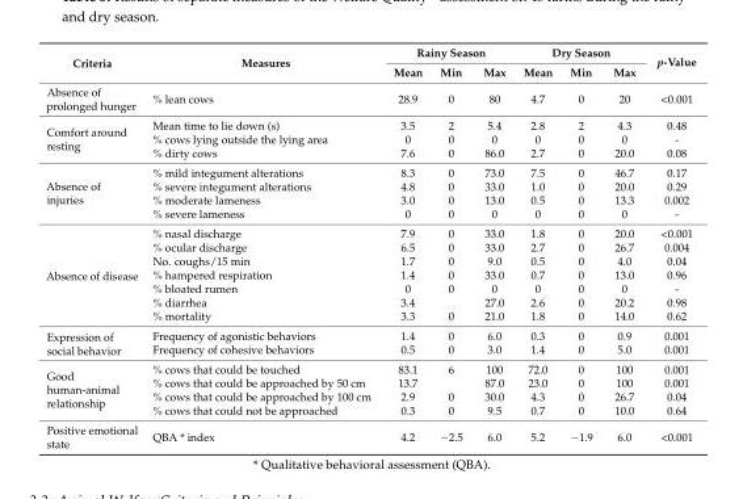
<table><thead><tr><td rowspan="2">Criteria</td><td rowspan="2">Measures</td><td colspan="3">Rainy Season</td><td colspan="3">Dry Season</td><td rowspan="2">p-Value</td></tr><tr><td>Mean</td><td>Min</td><td>Max</td><td>Mean</td><td>Min</td><td>Max</td></tr></thead><tbody><tr><td>Absence of prolonged hunger</td><td>% lean cows</td><td>28.9</td><td>0</td><td>80</td><td>4.7</td><td>0</td><td>20</td><td>&lt;0.001</td></tr><tr><td rowspan="3">Comfort around resting</td><td>Mean time to lie down (s)</td><td>3.5</td><td>2</td><td>5.4</td><td>2.8</td><td>2</td><td>4.3</td><td>0.48</td></tr><tr><td>% cows lying outside the lying area</td><td>0</td><td>0</td><td>0</td><td>0</td><td>0</td><td>0</td><td>-</td></tr><tr><td>% dirty cows</td><td>7.6</td><td>0</td><td>86.0</td><td>2.7</td><td>0</td><td>20.0</td><td>0.08</td></tr><tr><td rowspan="4">Absence of injuries</td><td>% mild integument alterations</td><td>8.3</td><td>0</td><td>73.0</td><td>7.5</td><td>0</td><td>46.7</td><td>0.17</td></tr><tr><td>% severe integument alterations</td><td>4.8</td><td>0</td><td>33.0</td><td>1.0</td><td>0</td><td>20.0</td><td>0.29</td></tr><tr><td>% moderate lameness</td><td>3.0</td><td>0</td><td>13.0</td><td>0.5</td><td>0</td><td>13.3</td><td>0.002</td></tr><tr><td>% severe lameness</td><td>0</td><td>0</td><td>0</td><td>0</td><td>0</td><td>0</td><td>-</td></tr><tr><td rowspan="7">Absence of disease</td><td>% nasal discharge</td><td>7.9</td><td>0</td><td>33.0</td><td>1.8</td><td>0</td><td>20.0</td><td>&lt;0.001</td></tr><tr><td>% ocular discharge</td><td>6.5</td><td>0</td><td>33.0</td><td>2.7</td><td>0</td><td>26.7</td><td>0.004</td></tr><tr><td>No. coughs/15 min</td><td>1.7</td><td>0</td><td>9.0</td><td>0.5</td><td>0</td><td>4.0</td><td>0.04</td></tr><tr><td>% hampered respiration</td><td>1.4</td><td>0</td><td>33.0</td><td>0.7</td><td>0</td><td>13.0</td><td>0.96</td></tr><tr><td>% bloated rumen</td><td>0</td><td>0</td><td>0</td><td>0</td><td>0</td><td>0</td><td>-</td></tr><tr><td>% diarrhea</td><td>3.4</td><td></td><td>27.0</td><td>2.6</td><td>0</td><td>20.2</td><td>0.98</td></tr><tr><td>% mortality</td><td>3.3</td><td>0</td><td>21.0</td><td>1.8</td><td>0</td><td>14.0</td><td>0.62</td></tr><tr><td rowspan="2">Expression of social behavior</td><td>Frequency of agonistic behaviors</td><td>1.4</td><td>0</td><td>6.0</td><td>0.3</td><td>0</td><td>0.9</td><td>0.001</td></tr><tr><td>Frequency of cohesive behaviors</td><td>0.5</td><td>0</td><td>3.0</td><td>1.4</td><td>0</td><td>5.0</td><td>0.001</td></tr><tr><td rowspan="4">Good human-animal relationship</td><td>% cows that could be touched</td><td>83.1</td><td>6</td><td>100</td><td>72.0</td><td>0</td><td>100</td><td>0.001</td></tr><tr><td>% cows that could be approached by 50 cm</td><td>13.7</td><td></td><td>87.0</td><td>23.0</td><td>0</td><td>100</td><td>0.001</td></tr><tr><td>% cows that could be approached by 100 cm</td><td>2.9</td><td>0</td><td>30.0</td><td>4.3</td><td>0</td><td>26.7</td><td>0.04</td></tr><tr><td>% cows that could not be approached</td><td>0.3</td><td>0</td><td>9.5</td><td>0.7</td><td>0</td><td>10.0</td><td>0.64</td></tr><tr><td>Positive emotional state</td><td>QBA * index</td><td>4.2</td><td>−2.5</td><td>6.0</td><td>5.2</td><td>−1.9</td><td>6.0</td><td>&lt;0.001</td></tr></tbody></table>